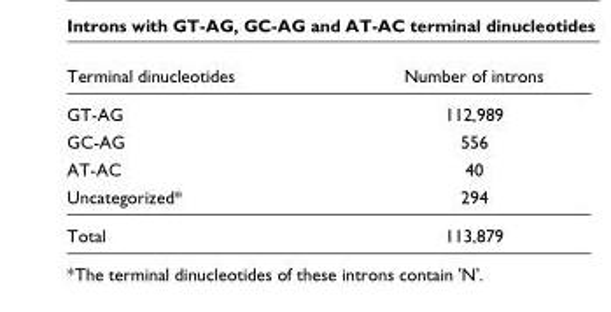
<table><thead><tr><td>Terminal dinucleotides</td><td>Number of introns</td></tr></thead><tbody><tr><td>GT-AG</td><td>112,989</td></tr><tr><td>GC-AG</td><td>556</td></tr><tr><td>AT-AC</td><td>40</td></tr><tr><td>Uncategorized*</td><td>294</td></tr><tr><td>Total</td><td>113,879</td></tr></tbody></table>